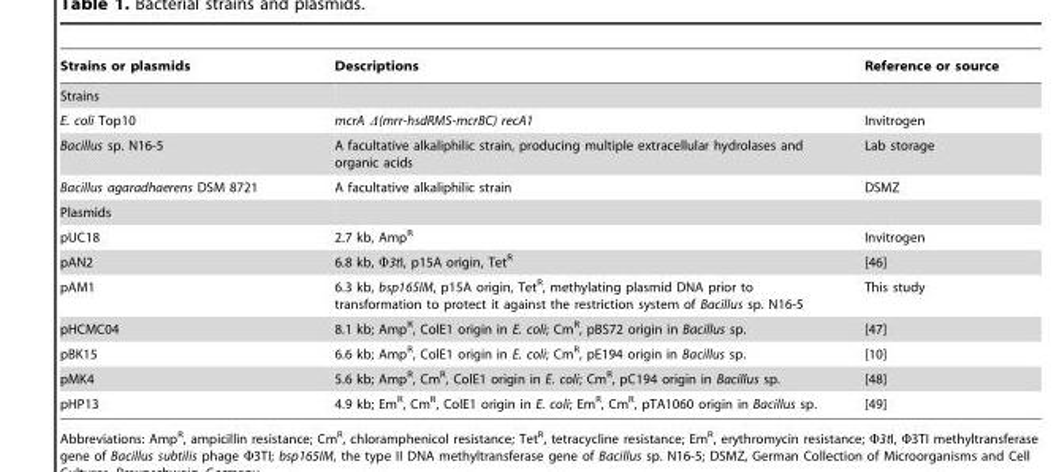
<table><thead><tr><td>Strains or plasmids</td><td>Descriptions</td><td>Reference or source</td></tr></thead><tbody><tr><td colspan="3">Strains</td></tr><tr><td>E. coli Top10</td><td>mcrA Δ(mrr-hsdRMS-mcrBC) recA1</td><td>Invitrogen</td></tr><tr><td>Bacillus sp. N16-5</td><td>A facultative alkaliphilic strain, producing multiple extracellular hydrolases and organic acids</td><td>Lab storage</td></tr><tr><td>Bacillus agaradhaerens DSM 8721</td><td>A facultative alkaliphilic strain</td><td>DSMZ</td></tr><tr><td colspan="3">Plasmids</td></tr><tr><td>pUC18</td><td>2.7 kb, Amp<sup>R</sup></td><td>Invitrogen</td></tr><tr><td>pAN2</td><td>6.8 kb, Φ3tI, p15A origin, Tet<sup>R</sup></td><td>[46]</td></tr><tr><td>pAM1</td><td>6.3 kb, bsp165IM, p15A origin, Tet<sup>R</sup>, methylating plasmid DNA prior to transformation to protect it against the restriction system of Bacillus sp. N16-5</td><td>This study</td></tr><tr><td>pHCMC04</td><td>8.1 kb; Amp<sup>R</sup>, ColE1 origin in E. coli; Cm<sup>R</sup>, pBS72 origin in Bacillus sp.</td><td>[47]</td></tr><tr><td>pBK15</td><td>6.6 kb; Amp<sup>R</sup>, ColE1 origin in E. coli; Cm<sup>R</sup>, pE194 origin in Bacillus sp.</td><td>[10]</td></tr><tr><td>pMK4</td><td>5.6 kb; Amp<sup>R</sup>, Cm<sup>R</sup>, ColE1 origin in E. coli; Cm<sup>R</sup>, pC194 origin in Bacillus sp.</td><td>[48]</td></tr><tr><td>pHP13</td><td>4.9 kb; Em<sup>R</sup>, Cm<sup>R</sup>, ColE1 origin in E. coli; Em<sup>R</sup>, Cm<sup>R</sup>, pTA1060 origin in Bacillus sp.</td><td>[49]</td></tr></tbody></table>